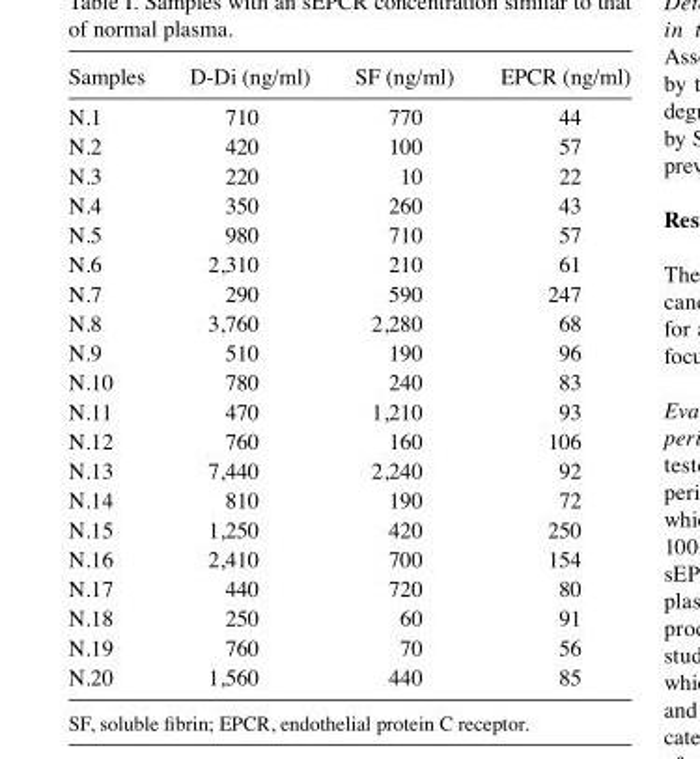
<table><thead><tr><td>Samples</td><td>D-Di (ng/ml)</td><td>SF (ng/ml)</td><td>EPCR (ng/ml)</td></tr></thead><tbody><tr><td>N.1</td><td>710</td><td>770</td><td>44</td></tr><tr><td>N.2</td><td>420</td><td>100</td><td>57</td></tr><tr><td>N.3</td><td>220</td><td>10</td><td>22</td></tr><tr><td>N.4</td><td>350</td><td>260</td><td>43</td></tr><tr><td>N.5</td><td>980</td><td>710</td><td>57</td></tr><tr><td>N.6</td><td>2,310</td><td>210</td><td>61</td></tr><tr><td>N.7</td><td>290</td><td>590</td><td>247</td></tr><tr><td>N.8</td><td>3,760</td><td>2,280</td><td>68</td></tr><tr><td>N.9</td><td>510</td><td>190</td><td>96</td></tr><tr><td>N.10</td><td>780</td><td>240</td><td>83</td></tr><tr><td>N.11</td><td>470</td><td>1,210</td><td>93</td></tr><tr><td>N.12</td><td>760</td><td>160</td><td>106</td></tr><tr><td>N.13</td><td>7,440</td><td>2,240</td><td>92</td></tr><tr><td>N.14</td><td>810</td><td>190</td><td>72</td></tr><tr><td>N.15</td><td>1,250</td><td>420</td><td>250</td></tr><tr><td>N.16</td><td>2,410</td><td>700</td><td>154</td></tr><tr><td>N.17</td><td>440</td><td>720</td><td>80</td></tr><tr><td>N.18</td><td>250</td><td>60</td><td>91</td></tr><tr><td>N.19</td><td>760</td><td>70</td><td>56</td></tr><tr><td>N.20</td><td>1,560</td><td>440</td><td>85</td></tr></tbody></table>